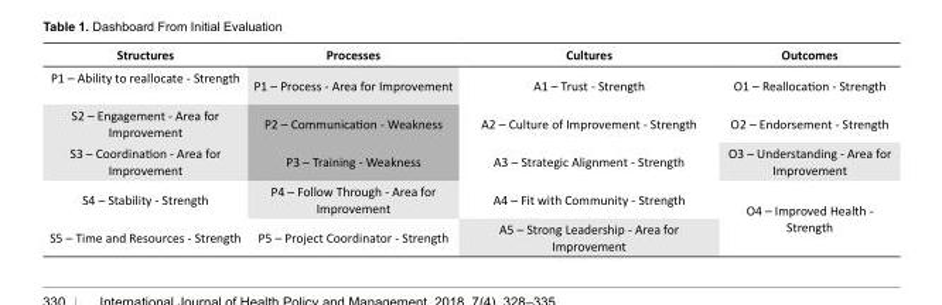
<table><tbody><tr><td>Structures</td><td>Processes</td><td>Cultures</td><td>Outcomes</td></tr><tr><td>P1 – Ability to reallocate - Strength</td><td>P1 – Process - Area for Improvement</td><td>A1 – Trust - Strength</td><td>O1 – Reallocation - Strength</td></tr><tr><td>S2 – Engagement - Area for Improvement</td><td>P2 – Communication - Weakness</td><td>A2 – Culture of Improvement - Strength</td><td>O2 – Endorsement - Strength</td></tr><tr><td>S3 – Coordination - Area for Improvement</td><td>P3 – Training - Weakness</td><td>A3 – Strategic Alignment - Strength</td><td>O3 – Understanding - Area for Improvement</td></tr><tr><td>S4 – Stability - Strength</td><td>P4 – Follow Through - Area for Improvement</td><td>A4 – Fit with Community - Strength</td><td rowspan="2">O4 – Improved Health - Strength</td></tr><tr><td>S5 – Time and Resources - Strength</td><td>P5 – Project Coordinator - Strength</td><td>A5 – Strong Leadership - Area for Improvement</td></tr></tbody></table>